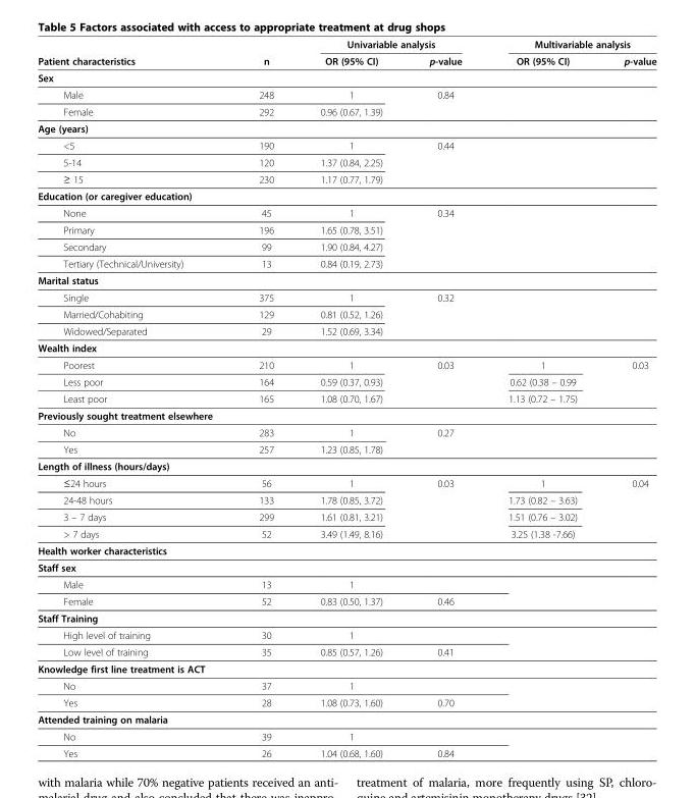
<table><thead><tr><td rowspan="2">Patient characteristics</td><td rowspan="2">n</td><td colspan="2">Univariable analysis</td><td colspan="2">Multivariable analysis</td></tr><tr><td>OR (95% CI)</td><td>p-value</td><td>OR (95% CI)</td><td>p-value</td></tr></thead><tbody><tr><td colspan="6">Sex</td></tr><tr><td>Male</td><td>248</td><td>1</td><td>0.84</td><td></td><td></td></tr><tr><td>Female</td><td>292</td><td>0.96 (0.67, 1.39)</td><td></td><td></td><td></td></tr><tr><td colspan="6">Age (years)</td></tr><tr><td>&lt;5</td><td>190</td><td>1</td><td>0.44</td><td></td><td></td></tr><tr><td>5-14</td><td>120</td><td>1.37 (0.84, 2.25)</td><td></td><td></td><td></td></tr><tr><td>≥ 15</td><td>230</td><td>1.17 (0.77, 1.79)</td><td></td><td></td><td></td></tr><tr><td colspan="6">Education (or caregiver education)</td></tr><tr><td>None</td><td>45</td><td>1</td><td>0.34</td><td></td><td></td></tr><tr><td>Primary</td><td>196</td><td>1.65 (0.78, 3.51)</td><td></td><td></td><td></td></tr><tr><td>Secondary</td><td>99</td><td>1.90 (0.84, 4.27)</td><td></td><td></td><td></td></tr><tr><td>Tertiary (Technical/University)</td><td>13</td><td>0.84 (0.19, 2.73)</td><td></td><td></td><td></td></tr><tr><td colspan="6">Marital status</td></tr><tr><td>Single</td><td>375</td><td>1</td><td>0.32</td><td></td><td></td></tr><tr><td>Married/Cohabiting</td><td>129</td><td>0.81 (0.52, 1.26)</td><td></td><td></td><td></td></tr><tr><td>Widowed/Separated</td><td>29</td><td>1.52 (0.69, 3.34)</td><td></td><td></td><td></td></tr><tr><td colspan="6">Wealth index</td></tr><tr><td>Poorest</td><td>210</td><td>1</td><td>0.03</td><td>1</td><td>0.03</td></tr><tr><td>Less poor</td><td>164</td><td>0.59 (0.37, 0.93)</td><td></td><td>0.62 (0.38 – 0.99</td><td></td></tr><tr><td>Least poor</td><td>165</td><td>1.08 (0.70, 1.67)</td><td></td><td>1.13 (0.72 – 1.75)</td><td></td></tr><tr><td colspan="6">Previously sought treatment elsewhere</td></tr><tr><td>No</td><td>283</td><td>1</td><td>0.27</td><td></td><td></td></tr><tr><td>Yes</td><td>257</td><td>1.23 (0.85, 1.78)</td><td></td><td></td><td></td></tr><tr><td colspan="6">Length of illness (hours/days)</td></tr><tr><td>≤24 hours</td><td>56</td><td>1</td><td>0.03</td><td>1</td><td>0.04</td></tr><tr><td>24-48 hours</td><td>133</td><td>1.78 (0.85, 3.72)</td><td></td><td>1.73 (0.82 – 3.63)</td><td></td></tr><tr><td>3 – 7 days</td><td>299</td><td>1.61 (0.81, 3.21)</td><td></td><td>1.51 (0.76 – 3.02)</td><td></td></tr><tr><td>&gt; 7 days</td><td>52</td><td>3.49 (1.49, 8.16)</td><td></td><td>3.25 (1.38 -7.66)</td><td></td></tr><tr><td colspan="6">Health worker characteristics</td></tr><tr><td colspan="6">Staff sex</td></tr><tr><td>Male</td><td>13</td><td>1</td><td></td><td></td><td></td></tr><tr><td>Female</td><td>52</td><td>0.83 (0.50, 1.37)</td><td>0.46</td><td></td><td></td></tr><tr><td colspan="6">Staff Training</td></tr><tr><td>High level of training</td><td>30</td><td>1</td><td></td><td></td><td></td></tr><tr><td>Low level of training</td><td>35</td><td>0.85 (0.57, 1.26)</td><td>0.41</td><td></td><td></td></tr><tr><td colspan="6">Knowledge first line treatment is ACT</td></tr><tr><td>No</td><td>37</td><td>1</td><td></td><td></td><td></td></tr><tr><td>Yes</td><td>28</td><td>1.08 (0.73, 1.60)</td><td>0.70</td><td></td><td></td></tr><tr><td colspan="6">Attended training on malaria</td></tr><tr><td>No</td><td>39</td><td>1</td><td></td><td></td><td></td></tr><tr><td>Yes</td><td>26</td><td>1.04 (0.68, 1.60)</td><td>0.84</td><td></td><td></td></tr></tbody></table>